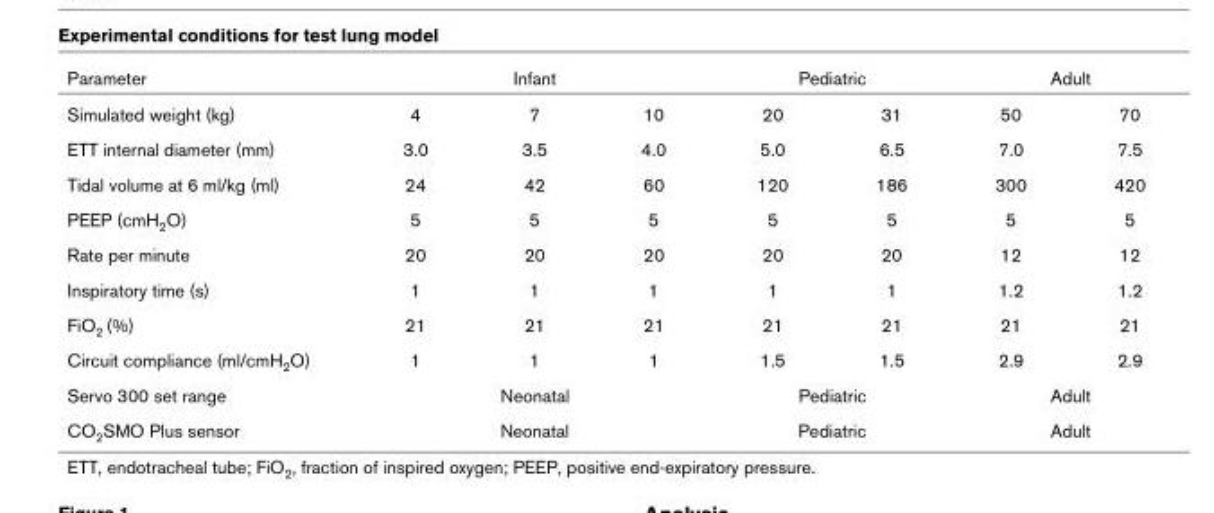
<table><thead><tr><td rowspan="2">Parameter Simulated weight (kg)</td><td colspan="3">Infant</td><td colspan="2">Pediatric</td><td colspan="2">Adult</td></tr><tr><td>4</td><td>7</td><td>10</td><td>20</td><td>31</td><td>50</td><td>70</td></tr></thead><tbody><tr><td>ETT internal diameter (mm)</td><td>3.0</td><td>3.5</td><td>4.0</td><td>5.0</td><td>6.5</td><td>7.0</td><td>7.5</td></tr><tr><td>Tidal volume at 6 ml/kg (ml)</td><td>24</td><td>42</td><td>60</td><td>120</td><td>186</td><td>300</td><td>420</td></tr><tr><td>PEEP (cmH2O)</td><td>5</td><td>5</td><td>5</td><td>5</td><td>5</td><td>5</td><td>5</td></tr><tr><td>Rate per minute</td><td>20</td><td>20</td><td>20</td><td>20</td><td>20</td><td>12</td><td>12</td></tr><tr><td>Inspiratory time (s)</td><td>1</td><td>1</td><td>1</td><td>1</td><td>1</td><td>1.2</td><td>1.2</td></tr><tr><td>FiO2 (%)</td><td>21</td><td>21</td><td>21</td><td>21</td><td>21</td><td>21</td><td>21</td></tr><tr><td>Circuit compliance (ml/cmH2O)</td><td>1</td><td>1</td><td>1</td><td>1.5</td><td>1.5</td><td>2.9</td><td>2.9</td></tr><tr><td>Servo 300 set range</td><td colspan="3">Neonatal</td><td colspan="2">Pediatric</td><td colspan="2">Adult</td></tr><tr><td>CO2SMO Plus sensor</td><td colspan="3">Neonatal</td><td colspan="2">Pediatric</td><td colspan="2">Adult</td></tr></tbody></table>